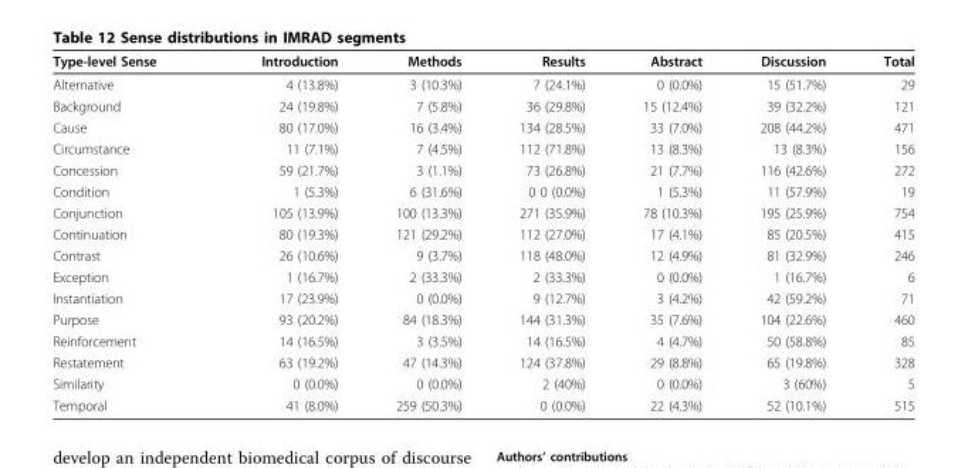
<table><thead><tr><td>Type-level Sense</td><td>Introduction</td><td>Methods</td><td>Results</td><td>Abstract</td><td>Discussion</td><td>Total</td></tr></thead><tbody><tr><td>Alternative</td><td>4 (13.8%)</td><td>3 (10.3%)</td><td>7 (24.1%)</td><td>0 (0.0%)</td><td>15 (51.7%)</td><td>29</td></tr><tr><td>Background</td><td>24 (19.8%)</td><td>7 (5.8%)</td><td>36 (29.8%)</td><td>15 (12.4%)</td><td>39 (32.2%)</td><td>121</td></tr><tr><td>Cause</td><td>80 (17.0%)</td><td>16 (3.4%)</td><td>134 (28.5%)</td><td>33 (7.0%)</td><td>208 (44.2%)</td><td>471</td></tr><tr><td>Circumstance</td><td>11 (7.1%)</td><td>7 (4.5%)</td><td>112 (71.8%)</td><td>13 (8.3%)</td><td>13 (8.3%)</td><td>156</td></tr><tr><td>Concession</td><td>59 (21.7%)</td><td>3 (1.1%)</td><td>73 (26.8%)</td><td>21 (7.7%)</td><td>116 (42.6%)</td><td>272</td></tr><tr><td>Condition</td><td>1 (5.3%)</td><td>6 (31.6%)</td><td>0 0 (0.0%)</td><td>1 (5.3%)</td><td>11 (57.9%)</td><td>19</td></tr><tr><td>Conjunction</td><td>105 (13.9%)</td><td>100 (13.3%)</td><td>271 (35.9%)</td><td>78 (10.3%)</td><td>195 (25.9%)</td><td>754</td></tr><tr><td>Continuation</td><td>80 (19.3%)</td><td>121 (29.2%)</td><td>112 (27.0%)</td><td>17 (4.1%)</td><td>85 (20.5%)</td><td>415</td></tr><tr><td>Contrast</td><td>26 (10.6%)</td><td>9 (3.7%)</td><td>118 (48.0%)</td><td>12 (4.9%)</td><td>81 (32.9%)</td><td>246</td></tr><tr><td>Exception</td><td>1 (16.7%)</td><td>2 (33.3%)</td><td>2 (33.3%)</td><td>0 (0.0%)</td><td>1 (16.7%)</td><td>6</td></tr><tr><td>Instantiation</td><td>17 (23.9%)</td><td>0 (0.0%)</td><td>9 (12.7%)</td><td>3 (4.2%)</td><td>42 (59.2%)</td><td>71</td></tr><tr><td>Purpose</td><td>93 (20.2%)</td><td>84 (18.3%)</td><td>144 (31.3%)</td><td>35 (7.6%)</td><td>104 (22.6%)</td><td>460</td></tr><tr><td>Reinforcement</td><td>14 (16.5%)</td><td>3 (3.5%)</td><td>14 (16.5%)</td><td>4 (4.7%)</td><td>50 (58.8%)</td><td>85</td></tr><tr><td>Restatement</td><td>63 (19.2%)</td><td>47 (14.3%)</td><td>124 (37.8%)</td><td>29 (8.8%)</td><td>65 (19.8%)</td><td>328</td></tr><tr><td>Similarity</td><td>0 (0.0%)</td><td>0 (0.0%)</td><td>2 (40%)</td><td>0 (0.0%)</td><td>3 (60%)</td><td>5</td></tr><tr><td>Temporal</td><td>41 (8.0%)</td><td>259 (50.3%)</td><td>0 (0.0%)</td><td>22 (4.3%)</td><td>52 (10.1%)</td><td>515</td></tr></tbody></table>